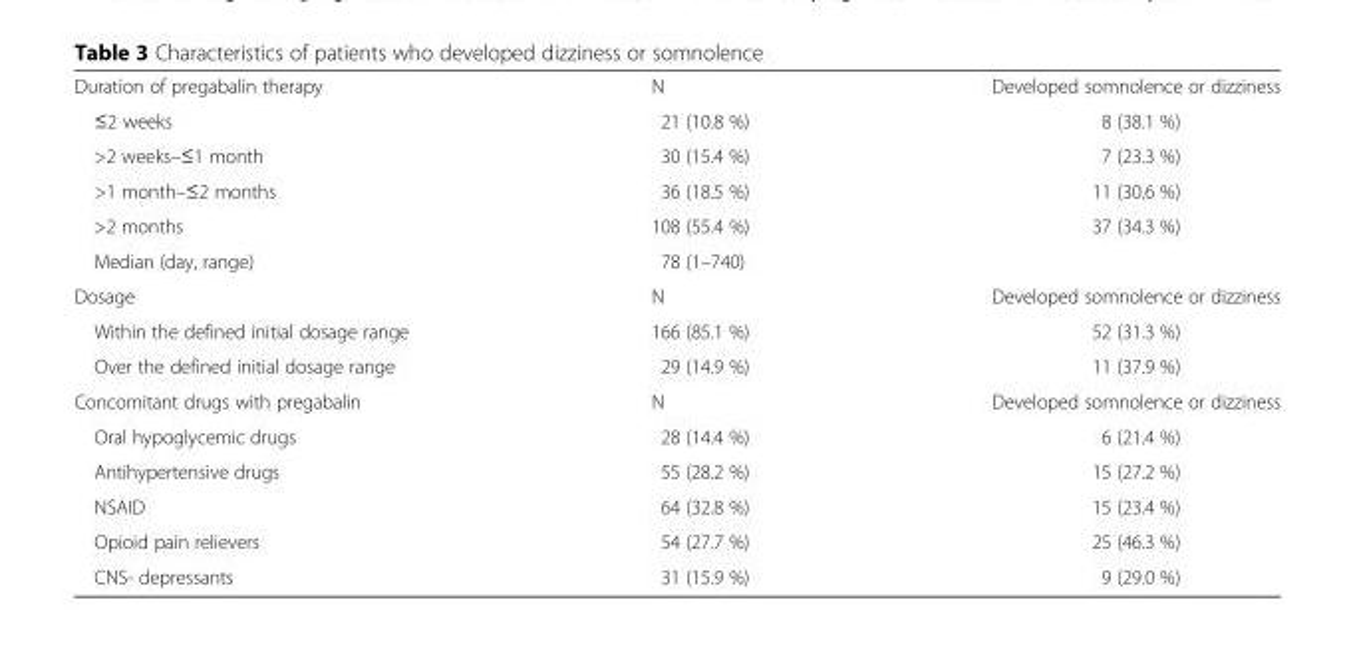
<table><tbody><tr><td>Duration of pregabalin therapy</td><td>N</td><td>Developed somnolence or dizziness</td></tr><tr><td>≤2 weeks</td><td>21 (10.8 %)</td><td>8 (38.1 %)</td></tr><tr><td>&gt;2 weeks–≤1 month</td><td>30 (15.4 %)</td><td>7 (23.3 %)</td></tr><tr><td>&gt;1 month–≤2 months</td><td>36 (18.5 %)</td><td>11 (30.6 %)</td></tr><tr><td>&gt;2 months</td><td>108 (55.4 %)</td><td>37 (34.3 %)</td></tr><tr><td>Median (day, range)</td><td>78 (1–740)</td><td></td></tr><tr><td>Dosage</td><td>N</td><td>Developed somnolence or dizziness</td></tr><tr><td>Within the defined initial dosage range</td><td>166 (85.1 %)</td><td>52 (31.3 %)</td></tr><tr><td>Over the defined initial dosage range</td><td>29 (14.9 %)</td><td>11 (37.9 %)</td></tr><tr><td>Concomitant drugs with pregabalin</td><td>N</td><td>Developed somnolence or dizziness</td></tr><tr><td>Oral hypoglycemic drugs</td><td>28 (14.4 %)</td><td>6 (21.4 %)</td></tr><tr><td>Antihypertensive drugs</td><td>55 (28.2 %)</td><td>15 (27.2 %)</td></tr><tr><td>NSAID</td><td>64 (32.8 %)</td><td>15 (23.4 %)</td></tr><tr><td>Opioid pain relievers</td><td>54 (27.7 %)</td><td>25 (46.3 %)</td></tr><tr><td>CNS- depressants</td><td>31 (15.9 %)</td><td>9 (29.0 %)</td></tr></tbody></table>